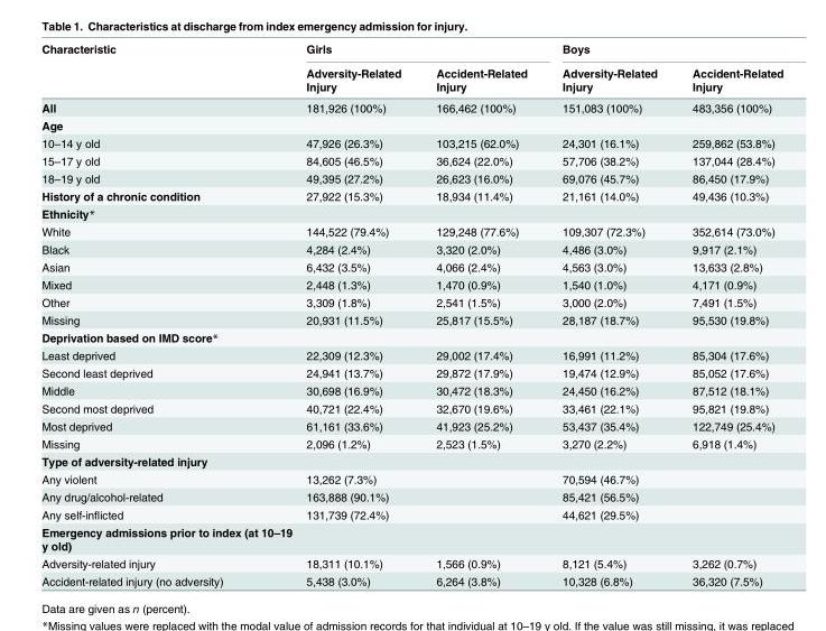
<table><thead><tr><td rowspan="2">Characteristic</td><td colspan="2">Girls</td><td colspan="2">Boys</td></tr><tr><td>Adversity-Related Injury</td><td>Accident-Related Injury</td><td>Adversity-Related Injury</td><td>Accident-Related Injury</td></tr></thead><tbody><tr><td>All</td><td>181,926 (100%)</td><td>166,462 (100%)</td><td>151,083 (100%)</td><td>483,356 (100%)</td></tr><tr><td colspan="5">Age</td></tr><tr><td>10–14 y old</td><td>47,926 (26.3%)</td><td>103,215 (62.0%)</td><td>24,301 (16.1%)</td><td>259,862 (53.8%)</td></tr><tr><td>15–17 y old</td><td>84,605 (46.5%)</td><td>36,624 (22.0%)</td><td>57,706 (38.2%)</td><td>137,044 (28.4%)</td></tr><tr><td>18–19 y old</td><td>49,395 (27.2%)</td><td>26,623 (16.0%)</td><td>69,076 (45.7%)</td><td>86,450 (17.9%)</td></tr><tr><td>History of a chronic condition</td><td>27,922 (15.3%)</td><td>18,934 (11.4%)</td><td>21,161 (14.0%)</td><td>49,436 (10.3%)</td></tr><tr><td colspan="5">Ethnicity*</td></tr><tr><td>White</td><td>144,522 (79.4%)</td><td>129,248 (77.6%)</td><td>109,307 (72.3%)</td><td>352,614 (73.0%)</td></tr><tr><td>Black</td><td>4,284 (2.4%)</td><td>3,320 (2.0%)</td><td>4,486 (3.0%)</td><td>9,917 (2.1%)</td></tr><tr><td>Asian</td><td>6,432 (3.5%)</td><td>4,066 (2.4%)</td><td>4,563 (3.0%)</td><td>13,633 (2.8%)</td></tr><tr><td>Mixed</td><td>2,448 (1.3%)</td><td>1,470 (0.9%)</td><td>1,540 (1.0%)</td><td>4,171 (0.9%)</td></tr><tr><td>Other</td><td>3,309 (1.8%)</td><td>2,541 (1.5%)</td><td>3,000 (2.0%)</td><td>7,491 (1.5%)</td></tr><tr><td>Missing</td><td>20,931 (11.5%)</td><td>25,817 (15.5%)</td><td>28,187 (18.7%)</td><td>95,530 (19.8%)</td></tr><tr><td colspan="5">Deprivation based on IMD score*</td></tr><tr><td>Least deprived</td><td>22,309 (12.3%)</td><td>29,002 (17.4%)</td><td>16,991 (11.2%)</td><td>85,304 (17.6%)</td></tr><tr><td>Second least deprived</td><td>24,941 (13.7%)</td><td>29,872 (17.9%)</td><td>19,474 (12.9%)</td><td>85,052 (17.6%)</td></tr><tr><td>Middle</td><td>30,698 (16.9%)</td><td>30,472 (18.3%)</td><td>24,450 (16.2%)</td><td>87,512 (18.1%)</td></tr><tr><td>Second most deprived</td><td>40,721 (22.4%)</td><td>32,670 (19.6%)</td><td>33,461 (22.1%)</td><td>95,821 (19.8%)</td></tr><tr><td>Most deprived</td><td>61,161 (33.6%)</td><td>41,923 (25.2%)</td><td>53,437 (35.4%)</td><td>122,749 (25.4%)</td></tr><tr><td>Missing</td><td>2,096 (1.2%)</td><td>2,523 (1.5%)</td><td>3,270 (2.2%)</td><td>6,918 (1.4%)</td></tr><tr><td colspan="5">Type of adversity-related injury</td></tr><tr><td>Any violent</td><td>13,262 (7.3%)</td><td></td><td>70,594 (46.7%)</td><td></td></tr><tr><td>Any drug/alcohol-related</td><td>163,888 (90.1%)</td><td></td><td>85,421 (56.5%)</td><td></td></tr><tr><td>Any self-inflicted</td><td>131,739 (72.4%)</td><td></td><td>44,621 (29.5%)</td><td></td></tr><tr><td colspan="5">Emergency admissions prior to index (at 10–19 y old)</td></tr><tr><td>Adversity-related injury</td><td>18,311 (10.1%)</td><td>1,566 (0.9%)</td><td>8,121 (5.4%)</td><td>3,262 (0.7%)</td></tr><tr><td>Accident-related injury (no adversity)</td><td>5,438 (3.0%)</td><td>6,264 (3.8%)</td><td>10,328 (6.8%)</td><td>36,320 (7.5%)</td></tr></tbody></table>